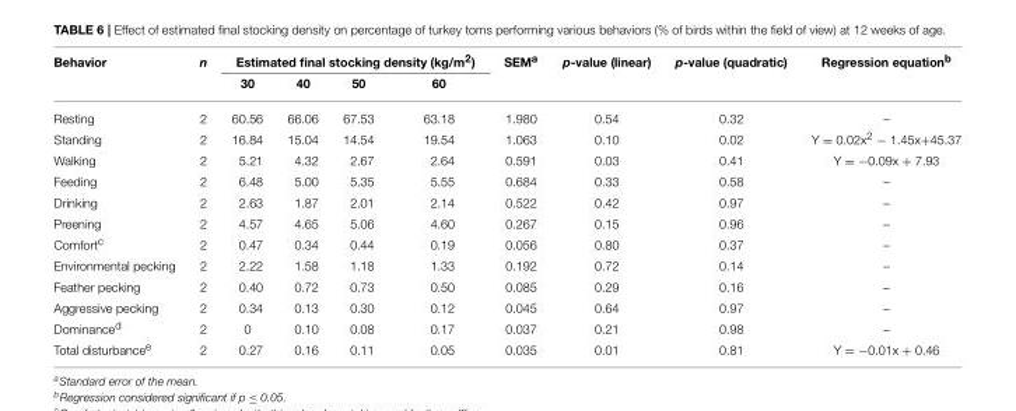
<table><thead><tr><td rowspan="2">Behavior</td><td rowspan="2">n</td><td colspan="4">Estimated final stocking density (kg/m<sup>2</sup>)</td><td rowspan="2">SEM<sup>a</sup></td><td rowspan="2">p-value (linear)</td><td rowspan="2">p-value (quadratic)</td><td rowspan="2">Regression equation<sup>b</sup></td></tr><tr><td>30</td><td>40</td><td>50</td><td>60</td></tr></thead><tbody><tr><td>Resting</td><td>2</td><td>60.56</td><td>66.06</td><td>67.53</td><td>63.18</td><td>1.980</td><td>0.54</td><td>0.32</td><td>–</td></tr><tr><td>Standing</td><td>2</td><td>16.84</td><td>15.04</td><td>14.54</td><td>19.54</td><td>1.063</td><td>0.10</td><td>0.02</td><td>Y = 0.02x<sup>2</sup> − 1.45x+45.37</td></tr><tr><td>Walking</td><td>2</td><td>5.21</td><td>4.32</td><td>2.67</td><td>2.64</td><td>0.591</td><td>0.03</td><td>0.41</td><td>Y = −0.09x + 7.93</td></tr><tr><td>Feeding</td><td>2</td><td>6.48</td><td>5.00</td><td>5.35</td><td>5.55</td><td>0.684</td><td>0.33</td><td>0.58</td><td>–</td></tr><tr><td>Drinking</td><td>2</td><td>2.63</td><td>1.87</td><td>2.01</td><td>2.14</td><td>0.522</td><td>0.42</td><td>0.97</td><td>–</td></tr><tr><td>Preening</td><td>2</td><td>4.57</td><td>4.65</td><td>5.06</td><td>4.60</td><td>0.267</td><td>0.15</td><td>0.96</td><td>–</td></tr><tr><td>Comfort<sup>c</sup></td><td>2</td><td>0.47</td><td>0.34</td><td>0.44</td><td>0.19</td><td>0.056</td><td>0.80</td><td>0.37</td><td>–</td></tr><tr><td>Environmental pecking</td><td>2</td><td>2.22</td><td>1.58</td><td>1.18</td><td>1.33</td><td>0.192</td><td>0.72</td><td>0.14</td><td>–</td></tr><tr><td>Feather pecking</td><td>2</td><td>0.40</td><td>0.72</td><td>0.73</td><td>0.50</td><td>0.085</td><td>0.29</td><td>0.16</td><td>–</td></tr><tr><td>Aggressive pecking</td><td>2</td><td>0.34</td><td>0.13</td><td>0.30</td><td>0.12</td><td>0.045</td><td>0.64</td><td>0.97</td><td>–</td></tr><tr><td>Dominance<sup>d</sup></td><td>2</td><td>0</td><td>0.10</td><td>0.08</td><td>0.17</td><td>0.037</td><td>0.21</td><td>0.98</td><td>–</td></tr><tr><td>Total disturbance<sup>e</sup></td><td>2</td><td>0.27</td><td>0.16</td><td>0.11</td><td>0.05</td><td>0.035</td><td>0.01</td><td>0.81</td><td>Y = −0.01x + 0.46</td></tr></tbody></table>